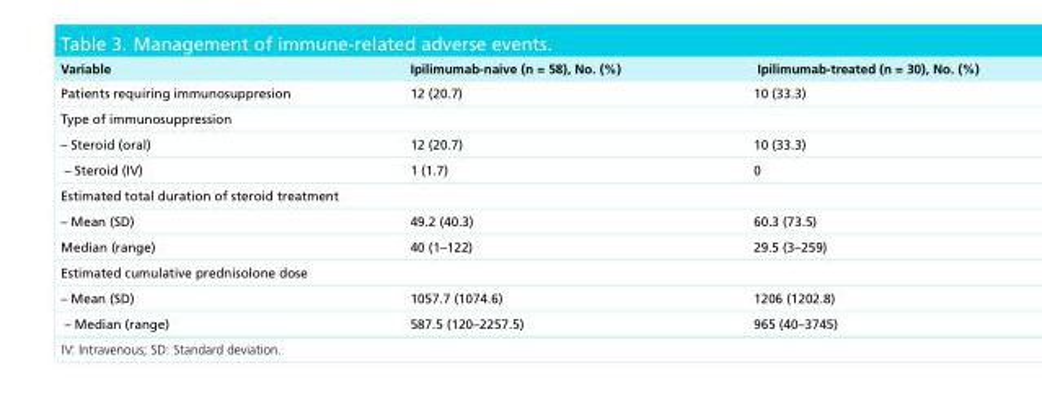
<table><thead><tr><td>Variable</td><td>Ipilimumab-naive (n = 58), No. (%)</td><td>Ipilimumab-treated (n = 30), No. (%)</td></tr></thead><tbody><tr><td>Patients requiring immunosuppresion</td><td>12 (20.7)</td><td>10 (33.3)</td></tr><tr><td colspan="3">Type of immunosuppression</td></tr><tr><td>– Steroid (oral)</td><td>12 (20.7)</td><td>10 (33.3)</td></tr><tr><td>– Steroid (IV)</td><td>1 (1.7)</td><td>0</td></tr><tr><td colspan="3">Estimated total duration of steroid treatment</td></tr><tr><td>– Mean (SD)</td><td>49.2 (40.3)</td><td>60.3 (73.5)</td></tr><tr><td>Median (range)</td><td>40 (1–122)</td><td>29.5 (3–259)</td></tr><tr><td colspan="3">Estimated cumulative prednisolone dose</td></tr><tr><td>– Mean (SD)</td><td>1057.7 (1074.6)</td><td>1206 (1202.8)</td></tr><tr><td>– Median (range)</td><td>587.5 (120–2257.5)</td><td>965 (40–3745)</td></tr></tbody></table>